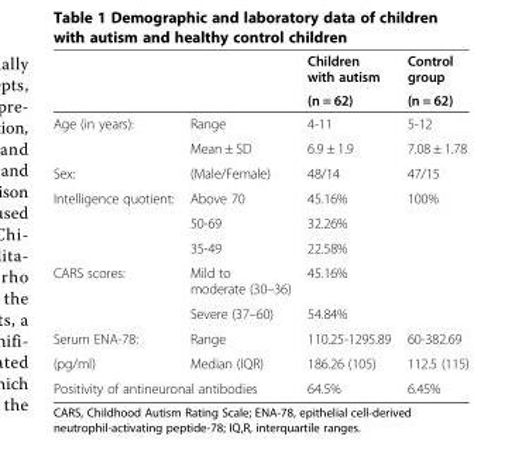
<table><thead><tr><td rowspan="2"></td><td rowspan="2"></td><td rowspan="2">Children with autism (n = 62)</td><td rowspan="2">Control group (n = 62)</td></tr><tr></tr></thead><tbody><tr><td rowspan="2">Age (in years):</td><td>Range</td><td>4-11</td><td>5-12</td></tr><tr><td>Mean ± SD</td><td>6.9 ± 1.9</td><td>7.08 ± 1.78</td></tr><tr><td>Sex:</td><td>(Male/Female)</td><td>48/14</td><td>47/15</td></tr><tr><td rowspan="3">Intelligence quotient:</td><td>Above 70</td><td>45.16%</td><td>100%</td></tr><tr><td>50-69</td><td>32.26%</td><td></td></tr><tr><td>35-49</td><td>22.58%</td><td></td></tr><tr><td rowspan="2">CARS scores:</td><td>Mild to moderate (30–36)</td><td>45.16%</td><td></td></tr><tr><td>Severe (37–60)</td><td>54.84%</td><td></td></tr><tr><td>Serum ENA-78:</td><td>Range</td><td>110.25-1295.89</td><td>60-382.69</td></tr><tr><td>(pg/ml)</td><td>Median (IQR)</td><td>186.26 (105)</td><td>112.5 (115)</td></tr><tr><td colspan="2">Positivity of antineuronal antibodies</td><td>64.5%</td><td>6.45%</td></tr></tbody></table>